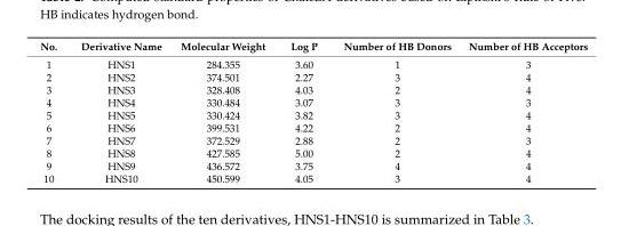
<table><thead><tr><td>No.</td><td>Derivative Name</td><td>Molecular Weight</td><td>Log P</td><td>Number of HB Donors</td><td>Number of HB Acceptors</td></tr></thead><tbody><tr><td>1</td><td>HNS1</td><td>284.355</td><td>3.60</td><td>1</td><td>3</td></tr><tr><td>2</td><td>HNS2</td><td>374.501</td><td>2.27</td><td>3</td><td>4</td></tr><tr><td>3</td><td>HNS3</td><td>328.408</td><td>4.03</td><td>2</td><td>4</td></tr><tr><td>4</td><td>HNS4</td><td>330.484</td><td>3.07</td><td>3</td><td>3</td></tr><tr><td>5</td><td>HNS5</td><td>330.424</td><td>3.82</td><td>3</td><td>4</td></tr><tr><td>6</td><td>HNS6</td><td>399.531</td><td>4.22</td><td>2</td><td>4</td></tr><tr><td>7</td><td>HNS7</td><td>372.529</td><td>2.88</td><td>2</td><td>3</td></tr><tr><td>8</td><td>HNS8</td><td>427.585</td><td>5.00</td><td>2</td><td>4</td></tr><tr><td>9</td><td>HNS9</td><td>436.572</td><td>3.75</td><td>4</td><td>4</td></tr><tr><td>10</td><td>HNS10</td><td>450.599</td><td>4.05</td><td>3</td><td>4</td></tr></tbody></table>